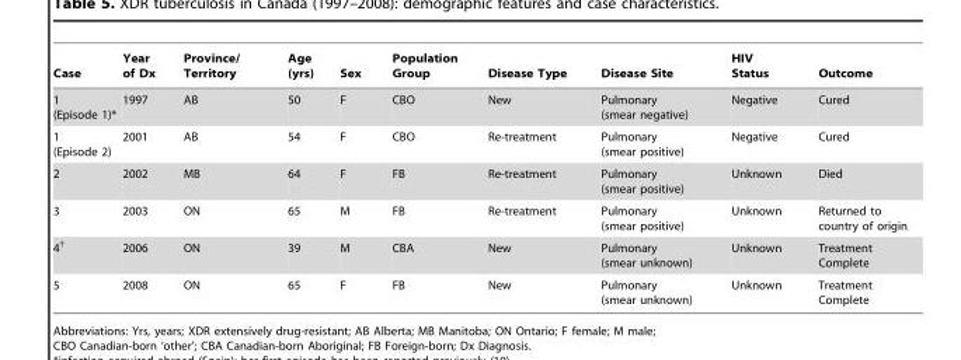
<table><thead><tr><td>Case</td><td>Year of Dx</td><td>Province/ Territory</td><td>Age (yrs)</td><td>Sex</td><td>Population Group</td><td>Disease Type</td><td>Disease Site</td><td>HIV Status</td><td>Outcome</td></tr></thead><tbody><tr><td>1 (Episode 1)*</td><td>1997</td><td>AB</td><td>50</td><td>F</td><td>CBO</td><td>New</td><td>Pulmonary (smear negative)</td><td>Negative</td><td>Cured</td></tr><tr><td>1 (Episode 2)</td><td>2001</td><td>AB</td><td>54</td><td>F</td><td>CBO</td><td>Re-treatment</td><td>Pulmonary (smear positive)</td><td>Negative</td><td>Cured</td></tr><tr><td>2</td><td>2002</td><td>MB</td><td>64</td><td>F</td><td>FB</td><td>Re-treatment</td><td>Pulmonary (smear positive)</td><td>Unknown</td><td>Died</td></tr><tr><td>3</td><td>2003</td><td>ON</td><td>65</td><td>M</td><td>FB</td><td>Re-treatment</td><td>Pulmonary (smear positive)</td><td>Unknown</td><td>Returned to country of origin</td></tr><tr><td>4†</td><td>2006</td><td>ON</td><td>39</td><td>M</td><td>CBA</td><td>New</td><td>Pulmonary (smear unknown)</td><td>Unknown</td><td>Treatment Complete</td></tr><tr><td>5</td><td>2008</td><td>ON</td><td>65</td><td>F</td><td>FB</td><td>New</td><td>Pulmonary (smear unknown)</td><td>Unknown</td><td>Treatment Complete</td></tr></tbody></table>